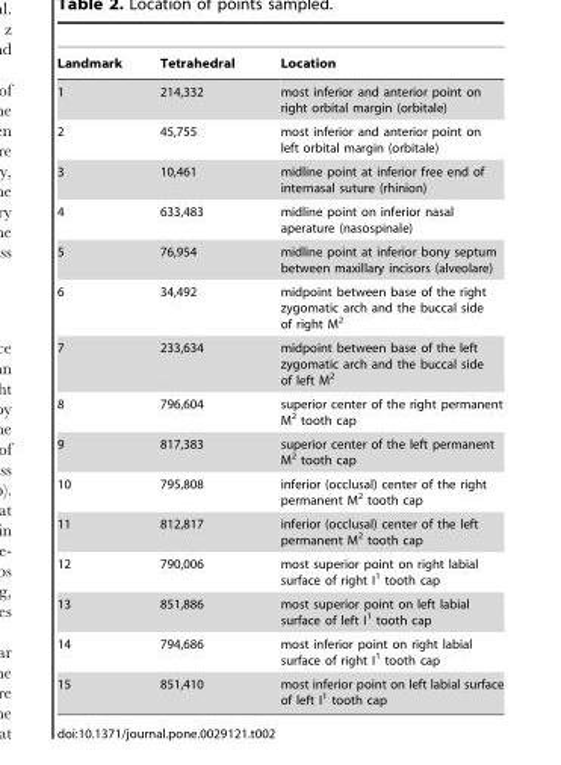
<table><thead><tr><td>Landmark</td><td>Tetrahedral</td><td>Location</td></tr></thead><tbody><tr><td>1</td><td>214,332</td><td>most inferior and anterior point on right orbital margin (orbitale)</td></tr><tr><td>2</td><td>45,755</td><td>most inferior and anterior point on left orbital margin (orbitale)</td></tr><tr><td>3</td><td>10,461</td><td>midline point at inferior free end of internasal suture (rhinion)</td></tr><tr><td>4</td><td>633,483</td><td>midline point on inferior nasal aperature (nasospinale)</td></tr><tr><td>5</td><td>76,954</td><td>midline point at inferior bony septum between maxillary incisors (alveolare)</td></tr><tr><td>6</td><td>34,492</td><td>midpoint between base of the right zygomatic arch and the buccal side of right M<sup>2</sup></td></tr><tr><td>7</td><td>233,634</td><td>midpoint between base of the left zygomatic arch and the buccal side of left M<sup>2</sup></td></tr><tr><td>8</td><td>796,604</td><td>superior center of the right permanent M<sup>2</sup> tooth cap</td></tr><tr><td>9</td><td>817,383</td><td>superior center of the left permanent M<sup>2</sup> tooth cap</td></tr><tr><td>10</td><td>795,808</td><td>inferior (occlusal) center of the right permanent M<sup>2</sup> tooth cap</td></tr><tr><td>11</td><td>812,817</td><td>inferior (occlusal) center of the left permanent M<sup>2</sup> tooth cap</td></tr><tr><td>12</td><td>790,006</td><td>most superior point on right labial surface of right I<sup>1</sup> tooth cap</td></tr><tr><td>13</td><td>851,886</td><td>most superior point on left labial surface of left I<sup>1</sup> tooth cap</td></tr><tr><td>14</td><td>794,686</td><td>most inferior point on right labial surface of right I<sup>1</sup> tooth cap</td></tr><tr><td>15</td><td>851,410</td><td>most inferior point on left labial surface of left I<sup>1</sup> tooth cap</td></tr></tbody></table>